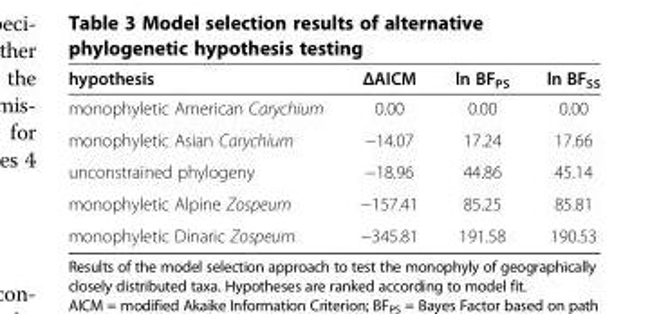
<table><thead><tr><td>hypothesis</td><td>ΔAICM</td><td>ln BF<sub>PS</sub></td><td>ln BF<sub>SS</sub></td></tr></thead><tbody><tr><td>monophyletic American Carychium</td><td>0.00</td><td>0.00</td><td>0.00</td></tr><tr><td>monophyletic Asian Carychium</td><td>−14.07</td><td>17.24</td><td>17.66</td></tr><tr><td>unconstrained phylogeny</td><td>−18.96</td><td>44.86</td><td>45.14</td></tr><tr><td>monophyletic Alpine Zospeum</td><td>−157.41</td><td>85.25</td><td>85.81</td></tr><tr><td>monophyletic Dinaric Zospeum</td><td>−345.81</td><td>191.58</td><td>190.53</td></tr></tbody></table>